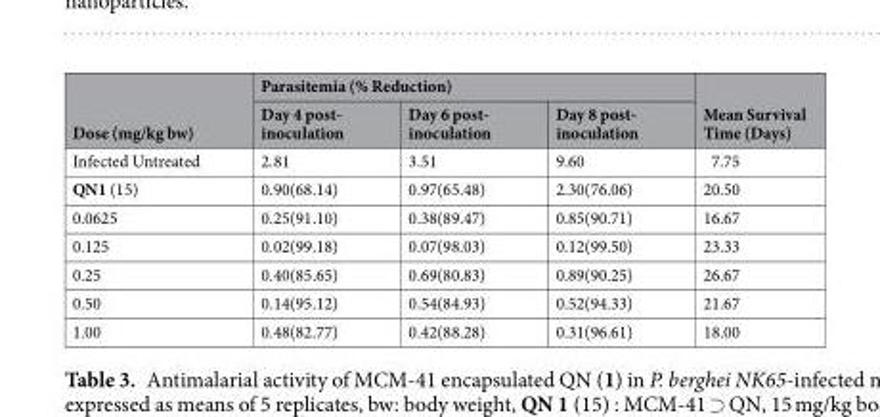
<table><thead><tr><td rowspan="2">Dose (mg/kg bw)</td><td colspan="3">Parasitemia (% Reduction)</td><td rowspan="2">Mean Survival Time (Days)</td></tr><tr><td>Day 4 post- inoculation</td><td>Day 6 post- inoculation</td><td>Day 8 post- inoculation</td></tr></thead><tbody><tr><td>Infected Untreated</td><td>2.81</td><td>3.51</td><td>9.60</td><td>7.75</td></tr><tr><td>QN1 (15)</td><td>0.90(68.14)</td><td>0.97(65.48)</td><td>2.30(76.06)</td><td>20.50</td></tr><tr><td>0.0625</td><td>0.25(91.10)</td><td>0.38(89.47)</td><td>0.85(90.71)</td><td>16.67</td></tr><tr><td>0.125</td><td>0.02(99.18)</td><td>0.07(98.03)</td><td>0.12(99.50)</td><td>23.33</td></tr><tr><td>0.25</td><td>0.40(85.65)</td><td>0.69(80.83)</td><td>0.89(90.25)</td><td>26.67</td></tr><tr><td>0.50</td><td>0.14(95.12)</td><td>0.54(84.93)</td><td>0.52(94.33)</td><td>21.67</td></tr><tr><td>1.00</td><td>0.48(82.77)</td><td>0.42(88.28)</td><td>0.31(96.61)</td><td>18.00</td></tr></tbody></table>